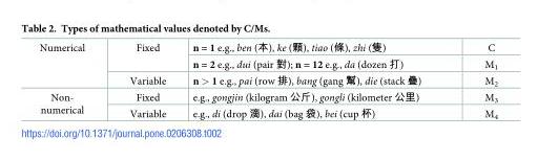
<table><tbody><tr><td rowspan="3">Numerical</td><td rowspan="2">Fixed</td><td>n = 1 e.g., ben (本), ke (顆), tiao (條), zhi (隻)</td><td>C</td></tr><tr><td>n = 2 e.g., dui (pair 對); n = 12 e.g., da (dozen 打)</td><td>M<sub>1</sub></td></tr><tr><td>Variable</td><td>n &gt; 1 e.g., pai (row 排), bang (gang 幫), die (stack 疊)</td><td>M<sub>2</sub></td></tr><tr><td rowspan="2">Non- numerical</td><td>Fixed</td><td>e.g., gongjin (kilogram 公斤), gongli (kilometer 公里)</td><td>M<sub>3</sub></td></tr><tr><td>Variable</td><td>e.g., di (drop 滴), dai (bag 袋), bei (cup 杯)</td><td>M<sub>4</sub></td></tr></tbody></table>